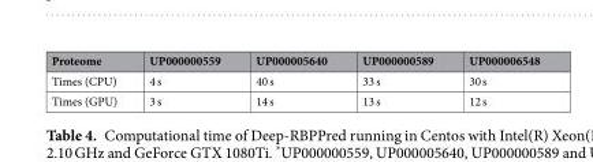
<table><thead><tr><td>Proteome</td><td>UP000000559</td><td>UP000005640</td><td>UP000000589</td><td>UP000006548</td></tr></thead><tbody><tr><td>Times (CPU)</td><td>4 s</td><td>40 s</td><td>33 s</td><td>30 s</td></tr><tr><td>Times (GPU)</td><td>3 s</td><td>14 s</td><td>13 s</td><td>12 s</td></tr></tbody></table>